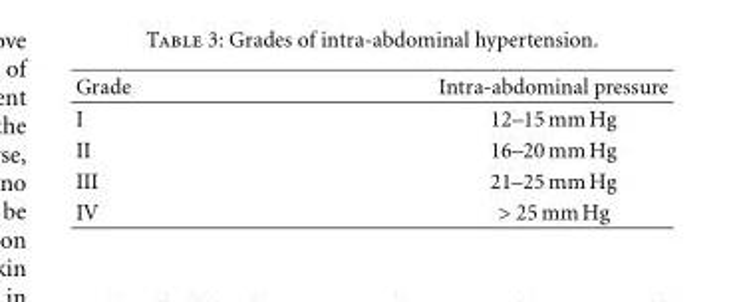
<table><thead><tr><td>Grade</td><td>Intra-abdominal pressure</td></tr></thead><tbody><tr><td>I</td><td>12–15 mm Hg</td></tr><tr><td>II</td><td>16–20 mm Hg</td></tr><tr><td>III</td><td>21–25 mm Hg</td></tr><tr><td>IV</td><td>&gt; 25 mm Hg</td></tr></tbody></table>